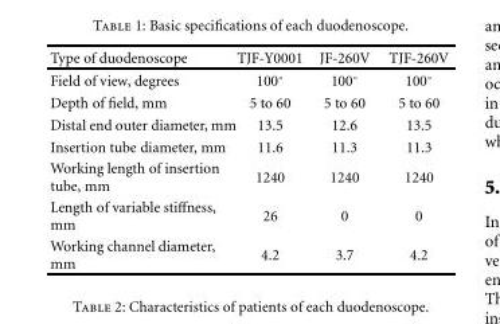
<table><thead><tr><td>Type of duodenoscope</td><td>TJF-Y0001</td><td>JF-260V</td><td>TJF-260V</td></tr></thead><tbody><tr><td>Field of view, degrees</td><td>100◦</td><td>100◦</td><td>100◦</td></tr><tr><td>Depth of field, mm</td><td>5 to 60</td><td>5 to 60</td><td>5 to 60</td></tr><tr><td>Distal end outer diameter, mm</td><td>13.5</td><td>12.6</td><td>13.5</td></tr><tr><td>Insertion tube diameter, mm</td><td>11.6</td><td>11.3</td><td>11.3</td></tr><tr><td>Working length of insertion tube, mm</td><td>1240</td><td>1240</td><td>1240</td></tr><tr><td>Length of variable stiffness, mm</td><td>26</td><td>0</td><td>0</td></tr><tr><td>Working channel diameter, mm</td><td>4.2</td><td>3.7</td><td>4.2</td></tr></tbody></table>